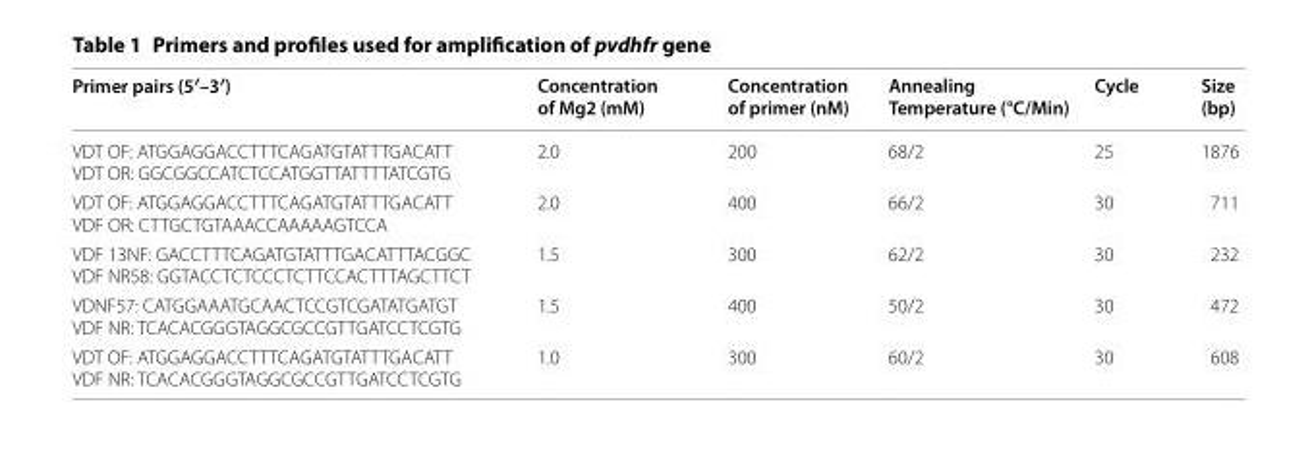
<table><thead><tr><td>Primer pairs (5′–3′)</td><td>Concentration of Mg2 (mM)</td><td>Concentration of primer (nM)</td><td>Annealing Temperature (°C/Min)</td><td>Cycle</td><td>Size (bp)</td></tr></thead><tbody><tr><td>VDT OF: ATGGAGGACCTTTCAGATGTATTTGACATT VDT OR: GGCGGCCATCTCCATGGTTATTTTATCGTG</td><td>2.0</td><td>200</td><td>68/2</td><td>25</td><td>1876</td></tr><tr><td>VDT OF: ATGGAGGACCTTTCAGATGTATTTGACATT VDF OR: CTTGCTGTAAACCAAAAAGTCCA</td><td>2.0</td><td>400</td><td>66/2</td><td>30</td><td>711</td></tr><tr><td>VDF 13NF: GACCTTTCAGATGTATTTGACATTTACGGC VDF NR58: GGTACCTCTCCCTCTTCCACTTTAGCTTCT</td><td>1.5</td><td>300</td><td>62/2</td><td>30</td><td>232</td></tr><tr><td>VDNF57: CATGGAAATGCAACTCCGTCGATATGATGT VDF NR: TCACACGGGTAGGCGCCGTTGATCCTCGTG</td><td>1.5</td><td>400</td><td>50/2</td><td>30</td><td>472</td></tr><tr><td>VDT OF: ATGGAGGACCTTTCAGATGTATTTGACATT VDF NR: TCACACGGGTAGGCGCCGTTGATCCTCGTG</td><td>1.0</td><td>300</td><td>60/2</td><td>30</td><td>608</td></tr></tbody></table>